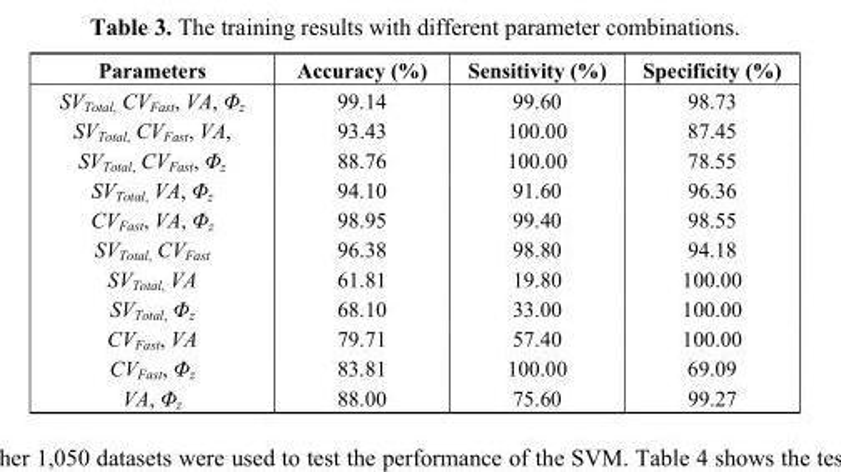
<table><thead><tr><td>Parameters</td><td>Accuracy (%)</td><td>Sensitivity (%)</td><td>Specificity (%)</td></tr></thead><tbody><tr><td>SV<sub>Total</sub>, CV<sub>Fast</sub>, VA, Φ<sub>z</sub></td><td>99.14</td><td>99.60</td><td>98.73</td></tr><tr><td>SV<sub>Total</sub>, CV<sub>Fast</sub>, VA,</td><td>93.43</td><td>100.00</td><td>87.45</td></tr><tr><td>SV<sub>Total</sub>, CV<sub>Fast</sub>, Φ<sub>z</sub></td><td>88.76</td><td>100.00</td><td>78.55</td></tr><tr><td>SV<sub>Total</sub>, VA, Φ<sub>z</sub></td><td>94.10</td><td>91.60</td><td>96.36</td></tr><tr><td>CV<sub>Fast</sub>, VA, Φ<sub>z</sub></td><td>98.95</td><td>99.40</td><td>98.55</td></tr><tr><td>SV<sub>Total</sub>, CV<sub>Fast</sub></td><td>96.38</td><td>98.80</td><td>94.18</td></tr><tr><td>SV<sub>Total</sub>, VA</td><td>61.81</td><td>19.80</td><td>100.00</td></tr><tr><td>SV<sub>Total</sub>, Φ<sub>z</sub></td><td>68.10</td><td>33.00</td><td>100.00</td></tr><tr><td>CV<sub>Fast</sub>, VA</td><td>79.71</td><td>57.40</td><td>100.00</td></tr><tr><td>CV<sub>Fast</sub>, Φ<sub>z</sub></td><td>83.81</td><td>100.00</td><td>69.09</td></tr><tr><td>VA, Φ<sub>z</sub></td><td>88.00</td><td>75.60</td><td>99.27</td></tr></tbody></table>